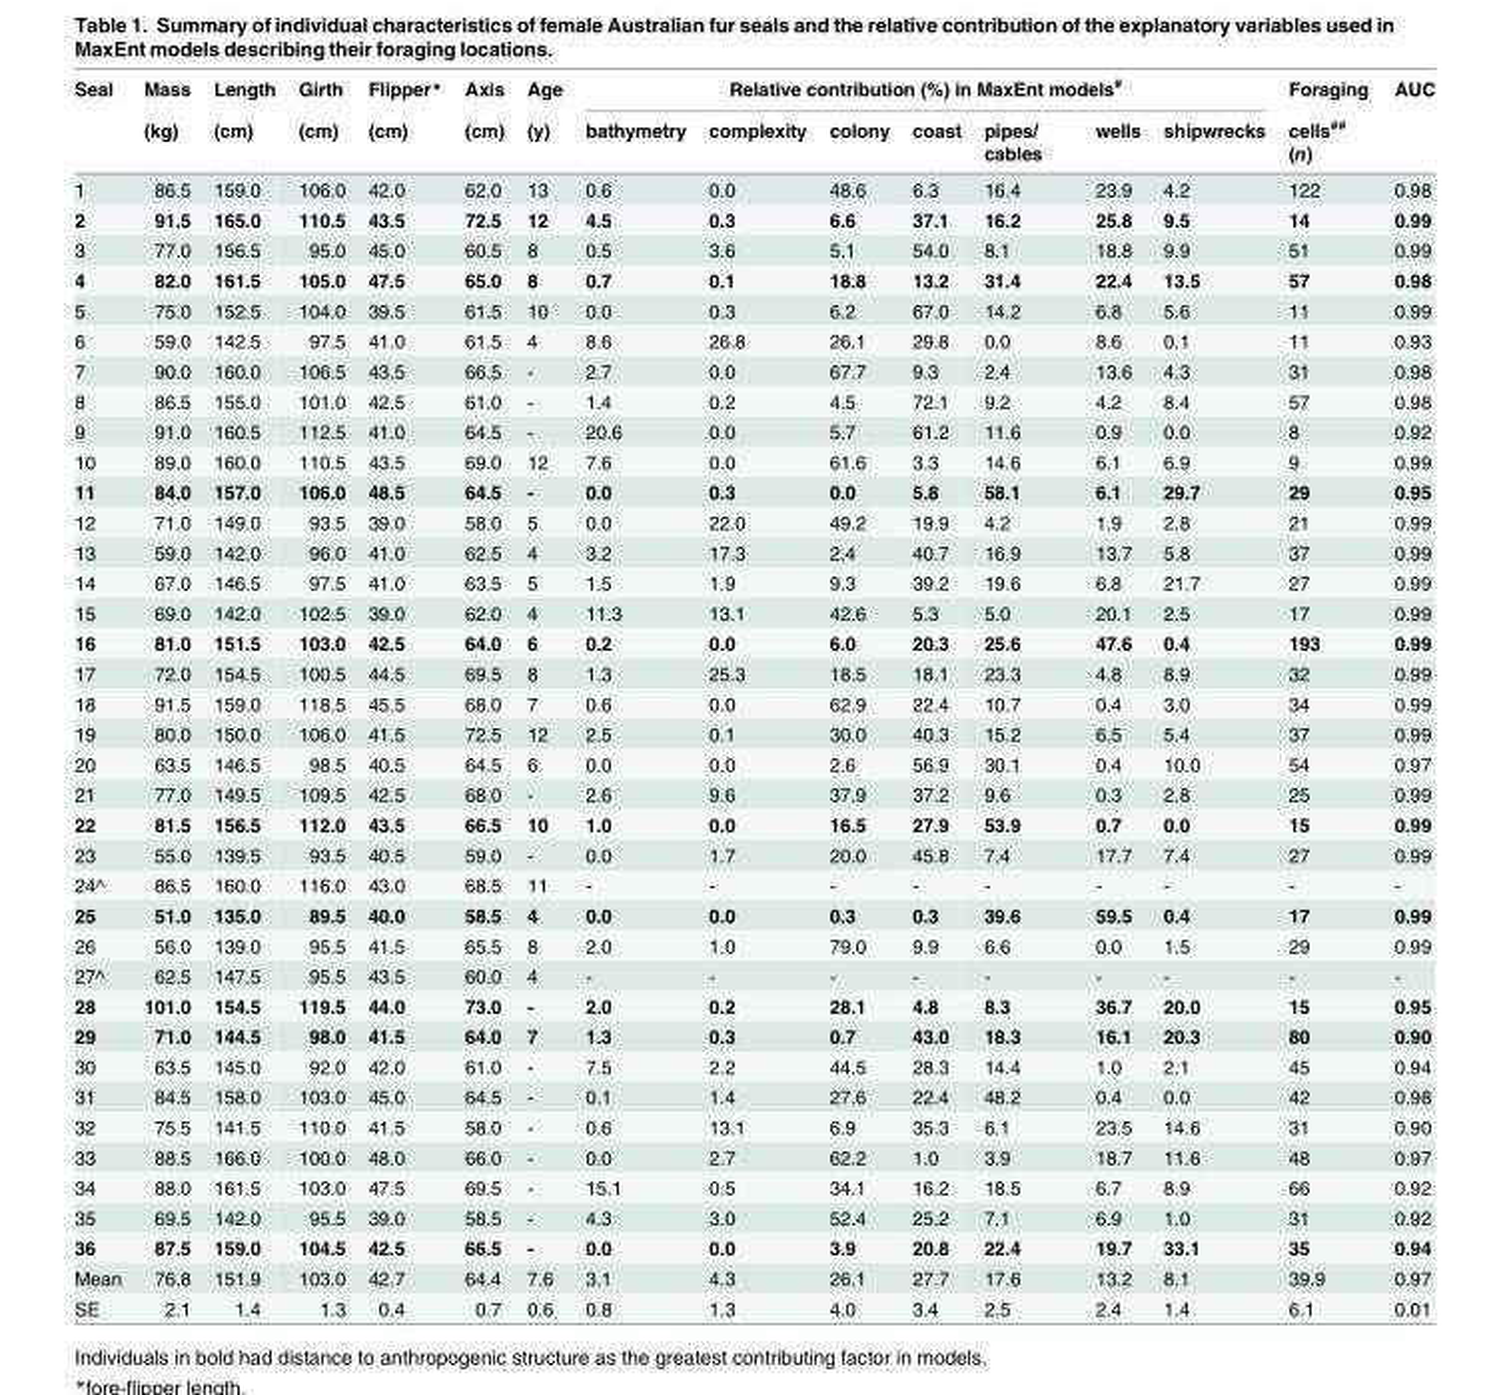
<table><thead><tr><td rowspan="2">Seal</td><td rowspan="2">Mass (kg)</td><td rowspan="2">Length (cm)</td><td rowspan="2">Girth (cm)</td><td rowspan="2">Flipper* (cm)</td><td rowspan="2">Axis (cm)</td><td rowspan="2">Age (y)</td><td colspan="7">Relative contribution (%) in MaxEnt models<sup>#</sup></td><td rowspan="2">Foraging cells<sup>##</sup> (n)</td><td rowspan="2">AUC</td></tr><tr><td>bathymetry</td><td>complexity</td><td>colony</td><td>coast</td><td>pipes/ cables</td><td>wells</td><td>shipwrecks</td></tr></thead><tbody><tr><td>1</td><td>86.5</td><td>159.0</td><td>106.0</td><td>42.0</td><td>62.0</td><td>13</td><td>0.6</td><td>0.0</td><td>48.6</td><td>6.3</td><td>16.4</td><td>23.9</td><td>4.2</td><td>122</td><td>0.98</td></tr><tr><td>2</td><td>91.5</td><td>165.0</td><td>110.5</td><td>43.5</td><td>72.5</td><td>12</td><td>4.5</td><td>0.3</td><td>6.6</td><td>37.1</td><td>16.2</td><td>25.8</td><td>9.5</td><td>14</td><td>0.99</td></tr><tr><td>3</td><td>77.0</td><td>156.5</td><td>95.0</td><td>45.0</td><td>60.5</td><td>8</td><td>0.5</td><td>3.6</td><td>5.1</td><td>54.0</td><td>8.1</td><td>18.8</td><td>9.9</td><td>51</td><td>0.99</td></tr><tr><td>4</td><td>82.0</td><td>161.5</td><td>105.0</td><td>47.5</td><td>65.0</td><td>8</td><td>0.7</td><td>0.1</td><td>18.8</td><td>13.2</td><td>31.4</td><td>22.4</td><td>13.5</td><td>57</td><td>0.98</td></tr><tr><td>5</td><td>75.0</td><td>152.5</td><td>104.0</td><td>39.5</td><td>61.5</td><td>10</td><td>0.0</td><td>0.3</td><td>6.2</td><td>67.0</td><td>14.2</td><td>6.8</td><td>5.6</td><td>11</td><td>0.99</td></tr><tr><td>6</td><td>59.0</td><td>142.5</td><td>97.5</td><td>41.0</td><td>61.5</td><td>4</td><td>8.6</td><td>26.8</td><td>26.1</td><td>29.8</td><td>0.0</td><td>8.6</td><td>0.1</td><td>11</td><td>0.93</td></tr><tr><td>7</td><td>90.0</td><td>160.0</td><td>106.5</td><td>43.5</td><td>66.5</td><td>-</td><td>2.7</td><td>0.0</td><td>67.7</td><td>9.3</td><td>2.4</td><td>13.6</td><td>4.3</td><td>31</td><td>0.98</td></tr><tr><td>8</td><td>86.5</td><td>155.0</td><td>101.0</td><td>42.5</td><td>61.0</td><td>-</td><td>1.4</td><td>0.2</td><td>4.5</td><td>72.1</td><td>9.2</td><td>4.2</td><td>8.4</td><td>57</td><td>0.98</td></tr><tr><td>9</td><td>91.0</td><td>160.5</td><td>112.5</td><td>41.0</td><td>64.5</td><td>-</td><td>20.6</td><td>0.0</td><td>5.7</td><td>61.2</td><td>11.6</td><td>0.9</td><td>0.0</td><td>8</td><td>0.92</td></tr><tr><td>10</td><td>89.0</td><td>160.0</td><td>110.5</td><td>43.5</td><td>69.0</td><td>12</td><td>7.6</td><td>0.0</td><td>61.6</td><td>3.3</td><td>14.6</td><td>6.1</td><td>6.9</td><td>9</td><td>0.99</td></tr><tr><td>11</td><td>84.0</td><td>157.0</td><td>106.0</td><td>48.5</td><td>64.5</td><td>-</td><td>0.0</td><td>0.3</td><td>0.0</td><td>5.8</td><td>58.1</td><td>6.1</td><td>29.7</td><td>29</td><td>0.95</td></tr><tr><td>12</td><td>71.0</td><td>149.0</td><td>93.5</td><td>39.0</td><td>58.0</td><td>5</td><td>0.0</td><td>22.0</td><td>49.2</td><td>19.9</td><td>4.2</td><td>1.9</td><td>2.8</td><td>21</td><td>0.99</td></tr><tr><td>13</td><td>59.0</td><td>142.0</td><td>96.0</td><td>41.0</td><td>62.5</td><td>4</td><td>3.2</td><td>17.3</td><td>2.4</td><td>40.7</td><td>16.9</td><td>13.7</td><td>5.8</td><td>37</td><td>0.99</td></tr><tr><td>14</td><td>67.0</td><td>146.5</td><td>97.5</td><td>41.0</td><td>63.5</td><td>5</td><td>1.5</td><td>1.9</td><td>9.3</td><td>39.2</td><td>19.6</td><td>6.8</td><td>21.7</td><td>27</td><td>0.99</td></tr><tr><td>15</td><td>69.0</td><td>142.0</td><td>102.5</td><td>39.0</td><td>62.0</td><td>4</td><td>11.3</td><td>13.1</td><td>42.6</td><td>5.3</td><td>5.0</td><td>20.1</td><td>2.5</td><td>17</td><td>0.99</td></tr><tr><td>16</td><td>81.0</td><td>151.5</td><td>103.0</td><td>42.5</td><td>64.0</td><td>6</td><td>0.2</td><td>0.0</td><td>6.0</td><td>20.3</td><td>25.6</td><td>47.6</td><td>0.4</td><td>193</td><td>0.99</td></tr><tr><td>17</td><td>72.0</td><td>154.5</td><td>100.5</td><td>44.5</td><td>69.5</td><td>8</td><td>1.3</td><td>25.3</td><td>18.5</td><td>18.1</td><td>23.3</td><td>4.8</td><td>8.9</td><td>32</td><td>0.99</td></tr><tr><td>18</td><td>91.5</td><td>159.0</td><td>118.5</td><td>45.5</td><td>68.0</td><td>7</td><td>0.6</td><td>0.0</td><td>62.9</td><td>22.4</td><td>10.7</td><td>0.4</td><td>3.0</td><td>34</td><td>0.99</td></tr><tr><td>19</td><td>80.0</td><td>150.0</td><td>106.0</td><td>41.5</td><td>72.5</td><td>12</td><td>2.5</td><td>0.1</td><td>30.0</td><td>40.3</td><td>15.2</td><td>6.5</td><td>5.4</td><td>37</td><td>0.99</td></tr><tr><td>20</td><td>63.5</td><td>146.5</td><td>98.5</td><td>40.5</td><td>64.5</td><td>6</td><td>0.0</td><td>0.0</td><td>2.6</td><td>56.9</td><td>30.1</td><td>0.4</td><td>10.0</td><td>54</td><td>0.97</td></tr><tr><td>21</td><td>77.0</td><td>149.5</td><td>109.5</td><td>42.5</td><td>68.0</td><td>-</td><td>2.6</td><td>9.6</td><td>37.9</td><td>37.2</td><td>9.6</td><td>0.3</td><td>2.8</td><td>25</td><td>0.99</td></tr><tr><td>22</td><td>81.5</td><td>156.5</td><td>112.0</td><td>43.5</td><td>66.5</td><td>10</td><td>1.0</td><td>0.0</td><td>16.5</td><td>27.9</td><td>53.9</td><td>0.7</td><td>0.0</td><td>15</td><td>0.99</td></tr><tr><td>23</td><td>55.0</td><td>139.5</td><td>93.5</td><td>40.5</td><td>59.0</td><td>-</td><td>0.0</td><td>1.7</td><td>20.0</td><td>45.8</td><td>7.4</td><td>17.7</td><td>7.4</td><td>27</td><td>0.99</td></tr><tr><td>24^</td><td>86.5</td><td>160.0</td><td>116.0</td><td>43.0</td><td>68.5</td><td>11</td><td>-</td><td>-</td><td>-</td><td>-</td><td>-</td><td>-</td><td>-</td><td>-</td><td>-</td></tr><tr><td>25</td><td>51.0</td><td>135.0</td><td>89.5</td><td>40.0</td><td>58.5</td><td>4</td><td>0.0</td><td>0.0</td><td>0.3</td><td>0.3</td><td>39.6</td><td>59.5</td><td>0.4</td><td>17</td><td>0.99</td></tr><tr><td>26</td><td>56.0</td><td>139.0</td><td>95.5</td><td>41.5</td><td>65.5</td><td>8</td><td>2.0</td><td>1.0</td><td>79.0</td><td>9.9</td><td>6.6</td><td>0.0</td><td>1.5</td><td>29</td><td>0.99</td></tr><tr><td>27^</td><td>62.5</td><td>147.5</td><td>95.5</td><td>43.5</td><td>60.0</td><td>4</td><td>-</td><td>-</td><td>-</td><td>-</td><td>-</td><td>-</td><td>-</td><td>-</td><td>-</td></tr><tr><td>28</td><td>101.0</td><td>154.5</td><td>119.5</td><td>44.0</td><td>73.0</td><td>-</td><td>2.0</td><td>0.2</td><td>28.1</td><td>4.8</td><td>8.3</td><td>36.7</td><td>20.0</td><td>15</td><td>0.95</td></tr><tr><td>29</td><td>71.0</td><td>144.5</td><td>98.0</td><td>41.5</td><td>64.0</td><td>7</td><td>1.3</td><td>0.3</td><td>0.7</td><td>43.0</td><td>18.3</td><td>16.1</td><td>20.3</td><td>80</td><td>0.90</td></tr><tr><td>30</td><td>63.5</td><td>145.0</td><td>92.0</td><td>42.0</td><td>61.0</td><td>-</td><td>7.5</td><td>2.2</td><td>44.5</td><td>28.3</td><td>14.4</td><td>1.0</td><td>2.1</td><td>45</td><td>0.94</td></tr><tr><td>31</td><td>84.5</td><td>158.0</td><td>103.0</td><td>45.0</td><td>64.5</td><td>-</td><td>0.1</td><td>1.4</td><td>27.6</td><td>22.4</td><td>48.2</td><td>0.4</td><td>0.0</td><td>42</td><td>0.98</td></tr><tr><td>32</td><td>75.5</td><td>141.5</td><td>110.0</td><td>41.5</td><td>58.0</td><td>-</td><td>0.6</td><td>13.1</td><td>6.9</td><td>35.3</td><td>6.1</td><td>23.5</td><td>14.6</td><td>31</td><td>0.90</td></tr><tr><td>33</td><td>88.5</td><td>166.0</td><td>100.0</td><td>48.0</td><td>66.0</td><td>-</td><td>0.0</td><td>2.7</td><td>62.2</td><td>1.0</td><td>3.9</td><td>18.7</td><td>11.6</td><td>48</td><td>0.97</td></tr><tr><td>34</td><td>88.0</td><td>161.5</td><td>103.0</td><td>47.5</td><td>69.5</td><td>-</td><td>15.1</td><td>0.5</td><td>34.1</td><td>16.2</td><td>18.5</td><td>6.7</td><td>8.9</td><td>66</td><td>0.92</td></tr><tr><td>35</td><td>69.5</td><td>142.0</td><td>95.5</td><td>39.0</td><td>58.5</td><td>-</td><td>4.3</td><td>3.0</td><td>52.4</td><td>25.2</td><td>7.1</td><td>6.9</td><td>1.0</td><td>31</td><td>0.92</td></tr><tr><td>36</td><td>87.5</td><td>159.0</td><td>104.5</td><td>42.5</td><td>66.5</td><td>-</td><td>0.0</td><td>0.0</td><td>3.9</td><td>20.8</td><td>22.4</td><td>19.7</td><td>33.1</td><td>35</td><td>0.94</td></tr><tr><td>Mean</td><td>76.8</td><td>151.9</td><td>103.0</td><td>42.7</td><td>64.4</td><td>7.6</td><td>3.1</td><td>4.3</td><td>26.1</td><td>27.7</td><td>17.6</td><td>13.2</td><td>8.1</td><td>39.9</td><td>0.97</td></tr><tr><td>SE</td><td>2.1</td><td>1.4</td><td>1.3</td><td>0.4</td><td>0.7</td><td>0.6</td><td>0.8</td><td>1.3</td><td>4.0</td><td>3.4</td><td>2.5</td><td>2.4</td><td>1.4</td><td>6.1</td><td>0.01</td></tr></tbody></table>